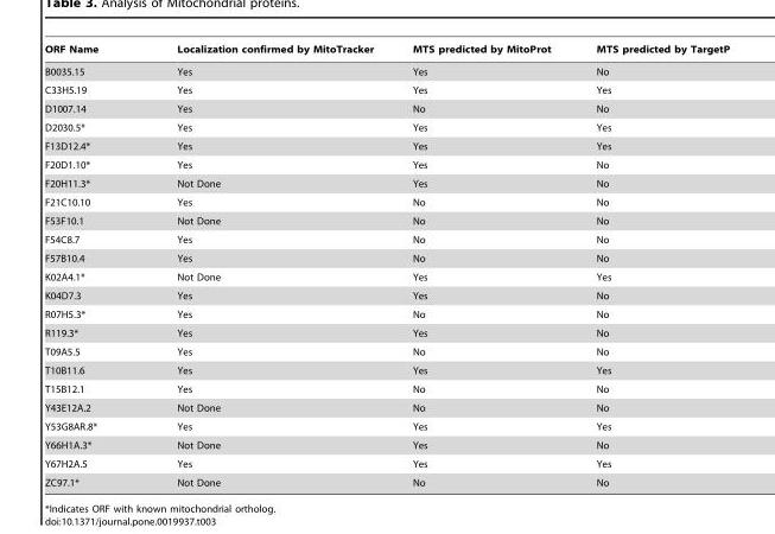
<table><thead><tr><td>ORF Name</td><td>Localization confirmed by MitoTracker</td><td>MTS predicted by MitoProt</td><td>MTS predicted by TargetP</td></tr></thead><tbody><tr><td>B0035.15</td><td>Yes</td><td>Yes</td><td>No</td></tr><tr><td>C33H5.19</td><td>Yes</td><td>Yes</td><td>Yes</td></tr><tr><td>D1007.14</td><td>Yes</td><td>No</td><td>No</td></tr><tr><td>D2030.5*</td><td>Yes</td><td>Yes</td><td>Yes</td></tr><tr><td>F13D12.4*</td><td>Yes</td><td>Yes</td><td>Yes</td></tr><tr><td>F20D1.10*</td><td>Yes</td><td>Yes</td><td>No</td></tr><tr><td>F20H11.3*</td><td>Not Done</td><td>Yes</td><td>No</td></tr><tr><td>F21C10.10</td><td>Yes</td><td>No</td><td>No</td></tr><tr><td>F53F10.1</td><td>Not Done</td><td>No</td><td>No</td></tr><tr><td>F54C8.7</td><td>Yes</td><td>No</td><td>No</td></tr><tr><td>F57B10.4</td><td>Yes</td><td>No</td><td>No</td></tr><tr><td>K02A4.1*</td><td>Not Done</td><td>Yes</td><td>Yes</td></tr><tr><td>K04D7.3</td><td>Yes</td><td>Yes</td><td>No</td></tr><tr><td>R07H5.3*</td><td>Yes</td><td>No</td><td>No</td></tr><tr><td>R119.3*</td><td>Yes</td><td>Yes</td><td>No</td></tr><tr><td>T09A5.5</td><td>Yes</td><td>No</td><td>No</td></tr><tr><td>T10B11.6</td><td>Yes</td><td>Yes</td><td>Yes</td></tr><tr><td>T15B12.1</td><td>Yes</td><td>No</td><td>No</td></tr><tr><td>Y43E12A.2</td><td>Not Done</td><td>No</td><td>No</td></tr><tr><td>Y53G8AR.8*</td><td>Yes</td><td>Yes</td><td>Yes</td></tr><tr><td>Y66H1A.3*</td><td>Not Done</td><td>Yes</td><td>No</td></tr><tr><td>Y67H2A.5</td><td>Yes</td><td>Yes</td><td>Yes</td></tr><tr><td>ZC97.1*</td><td>Not Done</td><td>No</td><td>No</td></tr></tbody></table>